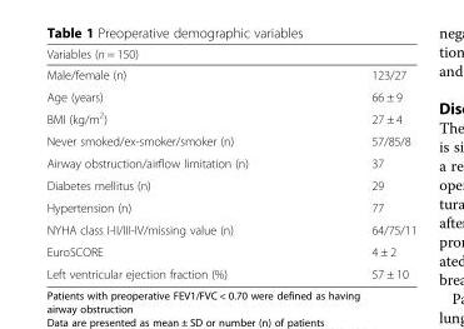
<table><thead><tr><td>Variables (n = 150)</td><td></td></tr></thead><tbody><tr><td>Male/female (n)</td><td>123/27</td></tr><tr><td>Age (years)</td><td>66 ± 9</td></tr><tr><td>BMI (kg/m<sup>2</sup>)</td><td>27 ± 4</td></tr><tr><td>Never smoked/ex-smoker/smoker (n)</td><td>57/85/8</td></tr><tr><td>Airway obstruction/airflow limitation (n)</td><td>37</td></tr><tr><td>Diabetes mellitus (n)</td><td>29</td></tr><tr><td>Hypertension (n)</td><td>77</td></tr><tr><td>NYHA class I-II/III-IV/missing value (n)</td><td>64/75/11</td></tr><tr><td>EuroSCORE</td><td>4 ± 2</td></tr><tr><td>Left ventricular ejection fraction (%)</td><td>57 ± 10</td></tr></tbody></table>